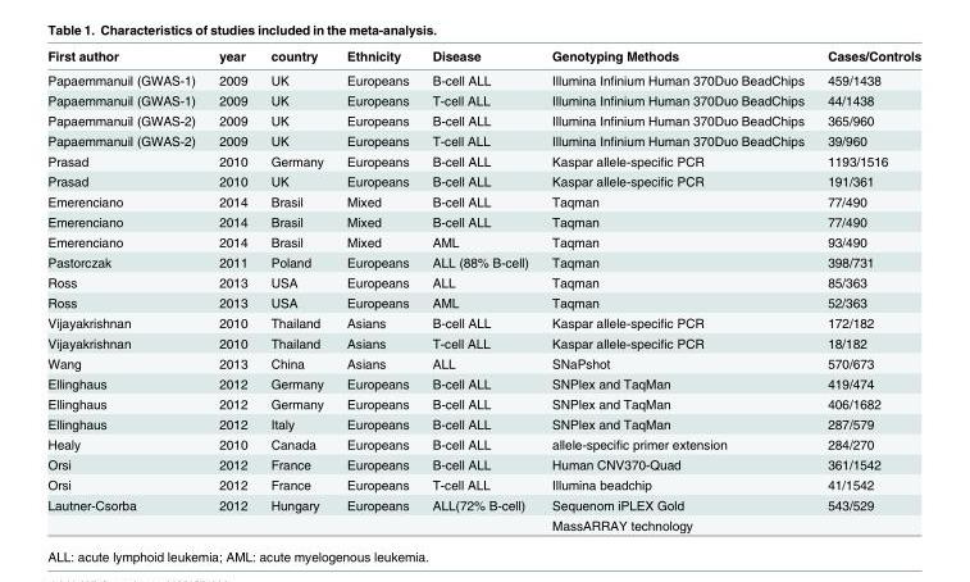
<table><thead><tr><td>First author</td><td>year</td><td>country</td><td>Ethnicity</td><td>Disease</td><td>Genotyping Methods</td><td>Cases/Controls</td></tr></thead><tbody><tr><td>Papaemmanuil (GWAS-1)</td><td>2009</td><td>UK</td><td>Europeans</td><td>B-cell ALL</td><td>Illumina Infinium Human 370Duo BeadChips</td><td>459/1438</td></tr><tr><td>Papaemmanuil (GWAS-1)</td><td>2009</td><td>UK</td><td>Europeans</td><td>T-cell ALL</td><td>Illumina Infinium Human 370Duo BeadChips</td><td>44/1438</td></tr><tr><td>Papaemmanuil (GWAS-2)</td><td>2009</td><td>UK</td><td>Europeans</td><td>B-cell ALL</td><td>Illumina Infinium Human 370Duo BeadChips</td><td>365/960</td></tr><tr><td>Papaemmanuil (GWAS-2)</td><td>2009</td><td>UK</td><td>Europeans</td><td>T-cell ALL</td><td>Illumina Infinium Human 370Duo BeadChips</td><td>39/960</td></tr><tr><td>Prasad</td><td>2010</td><td>Germany</td><td>Europeans</td><td>B-cell ALL</td><td>Kaspar allele-specific PCR</td><td>1193/1516</td></tr><tr><td>Prasad</td><td>2010</td><td>UK</td><td>Europeans</td><td>B-cell ALL</td><td>Kaspar allele-specific PCR</td><td>191/361</td></tr><tr><td>Emerenciano</td><td>2014</td><td>Brasil</td><td>Mixed</td><td>B-cell ALL</td><td>Taqman</td><td>77/490</td></tr><tr><td>Emerenciano</td><td>2014</td><td>Brasil</td><td>Mixed</td><td>B-cell ALL</td><td>Taqman</td><td>77/490</td></tr><tr><td>Emerenciano</td><td>2014</td><td>Brasil</td><td>Mixed</td><td>AML</td><td>Taqman</td><td>93/490</td></tr><tr><td>Pastorczak</td><td>2011</td><td>Poland</td><td>Europeans</td><td>ALL (88% B-cell)</td><td>Taqman</td><td>398/731</td></tr><tr><td>Ross</td><td>2013</td><td>USA</td><td>Europeans</td><td>ALL</td><td>Taqman</td><td>85/363</td></tr><tr><td>Ross</td><td>2013</td><td>USA</td><td>Europeans</td><td>AML</td><td>Taqman</td><td>52/363</td></tr><tr><td>Vijayakrishnan</td><td>2010</td><td>Thailand</td><td>Asians</td><td>B-cell ALL</td><td>Kaspar allele-specific PCR</td><td>172/182</td></tr><tr><td>Vijayakrishnan</td><td>2010</td><td>Thailand</td><td>Asians</td><td>T-cell ALL</td><td>Kaspar allele-specific PCR</td><td>18/182</td></tr><tr><td>Wang</td><td>2013</td><td>China</td><td>Asians</td><td>ALL</td><td>SNaPshot</td><td>570/673</td></tr><tr><td>Ellinghaus</td><td>2012</td><td>Germany</td><td>Europeans</td><td>B-cell ALL</td><td>SNPlex and TaqMan</td><td>419/474</td></tr><tr><td>Ellinghaus</td><td>2012</td><td>Germany</td><td>Europeans</td><td>B-cell ALL</td><td>SNPlex and TaqMan</td><td>406/1682</td></tr><tr><td>Ellinghaus</td><td>2012</td><td>Italy</td><td>Europeans</td><td>B-cell ALL</td><td>SNPlex and TaqMan</td><td>287/579</td></tr><tr><td>Healy</td><td>2010</td><td>Canada</td><td>Europeans</td><td>B-cell ALL</td><td>allele-specific primer extension</td><td>284/270</td></tr><tr><td>Orsi</td><td>2012</td><td>France</td><td>Europeans</td><td>B-cell ALL</td><td>Human CNV370-Quad</td><td>361/1542</td></tr><tr><td>Orsi</td><td>2012</td><td>France</td><td>Europeans</td><td>T-cell ALL</td><td>Illumina beadchip</td><td>41/1542</td></tr><tr><td rowspan="2">Lautner-Csorba</td><td>2012</td><td>Hungary</td><td>Europeans</td><td>ALL(72% B-cell)</td><td>Sequenom iPLEX Gold</td><td>543/529</td></tr><tr><td></td><td></td><td></td><td></td><td>MassARRAY technology</td><td></td></tr></tbody></table>